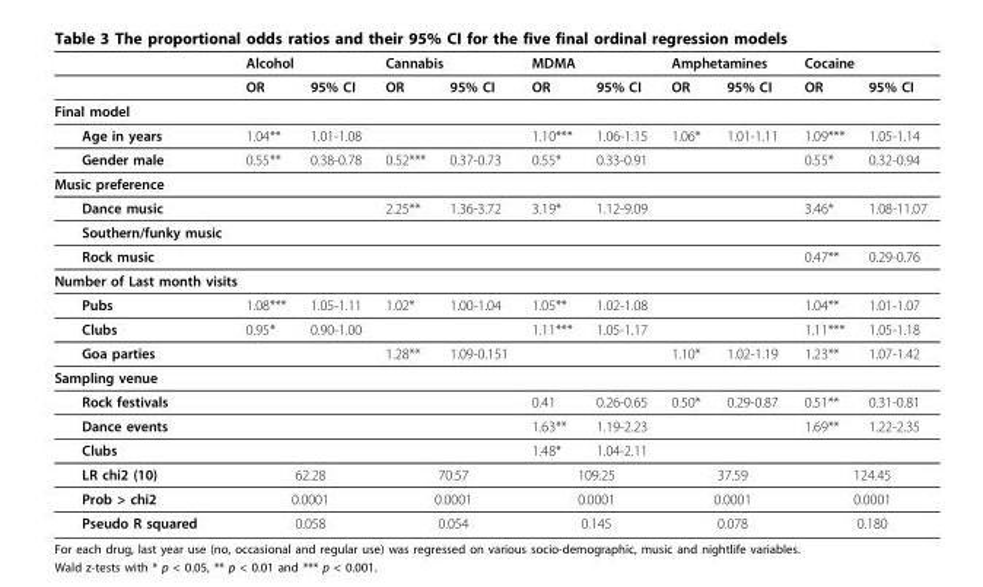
<table><thead><tr><td rowspan="2"></td><td colspan="2">Alcohol</td><td colspan="2">Cannabis</td><td colspan="2">MDMA</td><td colspan="2">Amphetamines</td><td colspan="2">Cocaine</td></tr><tr><td>OR</td><td>95% CI</td><td>OR</td><td>95% CI</td><td>OR</td><td>95% CI</td><td>OR</td><td>95% CI</td><td>OR</td><td>95% CI</td></tr></thead><tbody><tr><td colspan="11">Final model</td></tr><tr><td>Age in years</td><td>1.04**</td><td>1.01-1.08</td><td></td><td></td><td>1.10***</td><td>1.06-1.15</td><td>1.06*</td><td>1.01-1.11</td><td>1.09***</td><td>1.05-1.14</td></tr><tr><td>Gender male</td><td>0.55**</td><td>0.38-0.78</td><td>0.52***</td><td>0.37-0.73</td><td>0.55*</td><td>0.33-0.91</td><td></td><td></td><td>0.55*</td><td>0.32-0.94</td></tr><tr><td colspan="11">Music preference</td></tr><tr><td>Dance music</td><td></td><td></td><td>2.25**</td><td>1.36-3.72</td><td>3.19*</td><td>1.12-9.09</td><td></td><td></td><td>3.46*</td><td>1.08-11.07</td></tr><tr><td colspan="11">Southern/funky music</td></tr><tr><td>Rock music</td><td></td><td></td><td></td><td></td><td></td><td></td><td></td><td></td><td>0.47**</td><td>0.29-0.76</td></tr><tr><td colspan="11">Number of Last month visits</td></tr><tr><td>Pubs</td><td>1.08***</td><td>1.05-1.11</td><td>1.02*</td><td>1.00-1.04</td><td>1.05**</td><td>1.02-1.08</td><td></td><td></td><td>1.04**</td><td>1.01-1.07</td></tr><tr><td>Clubs</td><td>0.95*</td><td>0.90-1.00</td><td></td><td></td><td>1.11***</td><td>1.05-1.17</td><td></td><td></td><td>1.11***</td><td>1.05-1.18</td></tr><tr><td>Goa parties</td><td></td><td></td><td>1.28**</td><td>1.09-0.151</td><td></td><td></td><td>1.10*</td><td>1.02-1.19</td><td>1.23**</td><td>1.07-1.42</td></tr><tr><td colspan="11">Sampling venue</td></tr><tr><td>Rock festivals</td><td></td><td></td><td></td><td></td><td>0.41</td><td>0.26-0.65</td><td>0.50*</td><td>0.29-0.87</td><td>0.51**</td><td>0.31-0.81</td></tr><tr><td>Dance events</td><td></td><td></td><td></td><td></td><td>1.63**</td><td>1.19-2.23</td><td></td><td></td><td>1.69**</td><td>1.22-2.35</td></tr><tr><td>Clubs</td><td></td><td></td><td></td><td></td><td>1.48*</td><td>1.04-2.11</td><td></td><td></td><td></td><td></td></tr><tr><td>LR chi2 (10)</td><td colspan="2">62.28</td><td colspan="2">70.57</td><td colspan="2">109.25</td><td colspan="2">37.59</td><td colspan="2">124.45</td></tr><tr><td>Prob &gt; chi2</td><td colspan="2">0.0001</td><td colspan="2">0.0001</td><td colspan="2">0.0001</td><td colspan="2">0.0001</td><td colspan="2">0.0001</td></tr><tr><td>Pseudo R squared</td><td colspan="2">0.058</td><td colspan="2">0.054</td><td colspan="2">0.145</td><td colspan="2">0.078</td><td colspan="2">0.180</td></tr></tbody></table>